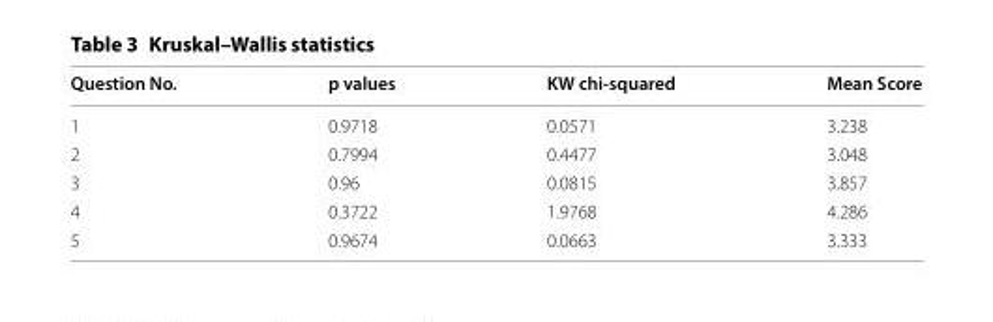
<table><thead><tr><td>Question No.</td><td>p values</td><td>KW chi-squared</td><td>Mean Score</td></tr></thead><tbody><tr><td>1</td><td>0.9718</td><td>0.0571</td><td>3.238</td></tr><tr><td>2</td><td>0.7994</td><td>0.4477</td><td>3.048</td></tr><tr><td>3</td><td>0.96</td><td>0.0815</td><td>3.857</td></tr><tr><td>4</td><td>0.3722</td><td>1.9768</td><td>4.286</td></tr><tr><td>5</td><td>0.9674</td><td>0.0663</td><td>3.333</td></tr></tbody></table>